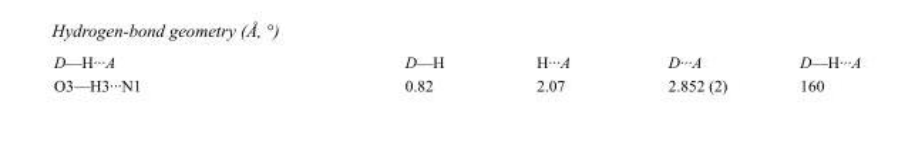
<table><tbody><tr><td>D—H···A</td><td>D—H</td><td>H···A</td><td>D···A</td><td>D—H···A</td></tr><tr><td>O3—H3···N1</td><td>0.82</td><td>2.07</td><td>2.852 (2)</td><td>160</td></tr></tbody></table>